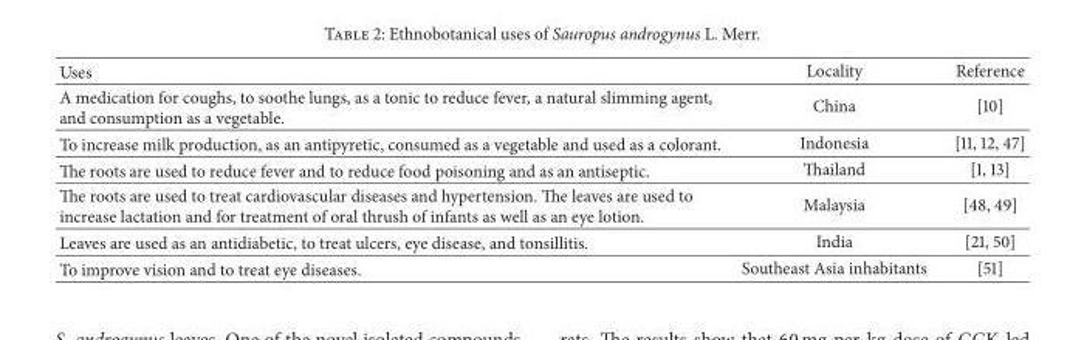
<table><thead><tr><td>Uses</td><td>Locality</td><td>Reference</td></tr></thead><tbody><tr><td>A medication for coughs, to soothe lungs, as a tonic to reduce fever, a natural slimming agent, and consumption as a vegetable.</td><td>China</td><td>[10]</td></tr><tr><td>To increase milk production, as an antipyretic, consumed as a vegetable and used as a colorant.</td><td>Indonesia</td><td>[11, 12, 47]</td></tr><tr><td>The roots are used to reduce fever and to reduce food poisoning and as an antiseptic.</td><td>Thailand</td><td>[1, 13]</td></tr><tr><td>The roots are used to treat cardiovascular diseases and hypertension. The leaves are used to increase lactation and for treatment of oral thrush of infants as well as an eye lotion.</td><td>Malaysia</td><td>[48, 49]</td></tr><tr><td>Leaves are used as an antidiabetic, to treat ulcers, eye disease, and tonsillitis.</td><td>India</td><td>[21, 50]</td></tr><tr><td>To improve vision and to treat eye diseases.</td><td>Southeast Asia inhabitants</td><td>[51]</td></tr></tbody></table>